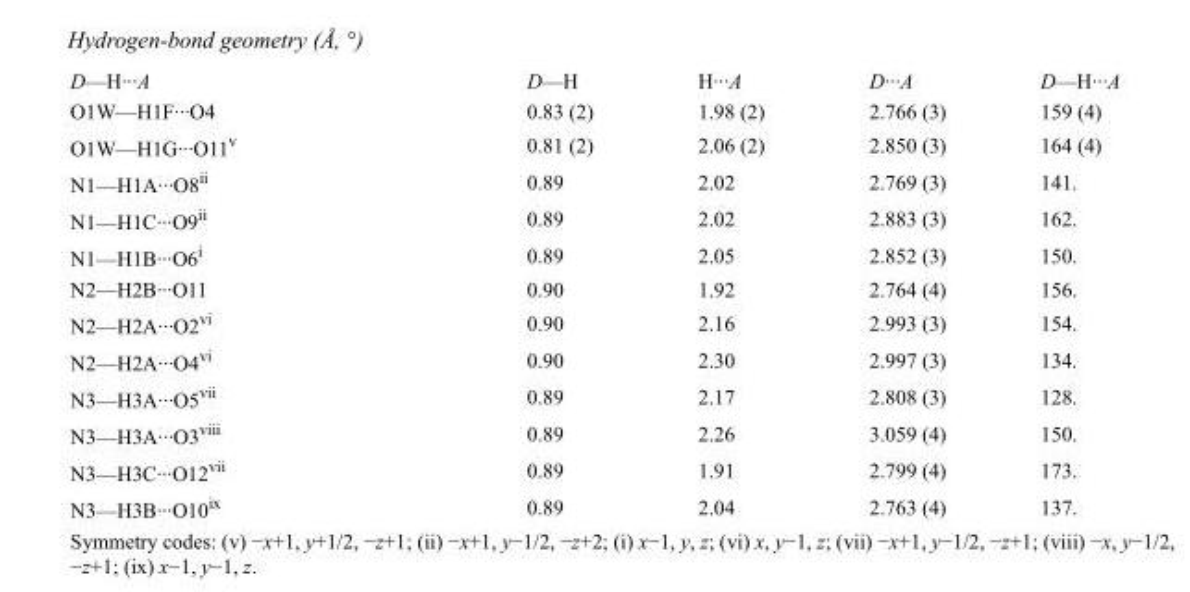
<table><tbody><tr><td>D—H···A</td><td>D—H</td><td>H···A</td><td>D···A</td><td>D—H···A</td></tr><tr><td>O1W—H1F···O4</td><td>0.83 (2)</td><td>1.98 (2)</td><td>2.766 (3)</td><td>159 (4)</td></tr><tr><td>O1W—H1G···O11<sup>v</sup></td><td>0.81 (2)</td><td>2.06 (2)</td><td>2.850 (3)</td><td>164 (4)</td></tr><tr><td>N1—H1A···O8<sup>ii</sup></td><td>0.89</td><td>2.02</td><td>2.769 (3)</td><td>141.</td></tr><tr><td>N1—H1C···O9<sup>ii</sup></td><td>0.89</td><td>2.02</td><td>2.883 (3)</td><td>162.</td></tr><tr><td>N1—H1B···O6<sup>i</sup></td><td>0.89</td><td>2.05</td><td>2.852 (3)</td><td>150.</td></tr><tr><td>N2—H2B···O11</td><td>0.90</td><td>1.92</td><td>2.764 (4)</td><td>156.</td></tr><tr><td>N2—H2A···O2<sup>vi</sup></td><td>0.90</td><td>2.16</td><td>2.993 (3)</td><td>154.</td></tr><tr><td>N2—H2A···O4<sup>vi</sup></td><td>0.90</td><td>2.30</td><td>2.997 (3)</td><td>134.</td></tr><tr><td>N3—H3A···O5<sup>vii</sup></td><td>0.89</td><td>2.17</td><td>2.808 (3)</td><td>128.</td></tr><tr><td>N3—H3A···O3<sup>viii</sup></td><td>0.89</td><td>2.26</td><td>3.059 (4)</td><td>150.</td></tr><tr><td>N3—H3C···O12<sup>vii</sup></td><td>0.89</td><td>1.91</td><td>2.799 (4)</td><td>173.</td></tr><tr><td>N3—H3B···O10<sup>ix</sup></td><td>0.89</td><td>2.04</td><td>2.763 (4)</td><td>137.</td></tr></tbody></table>